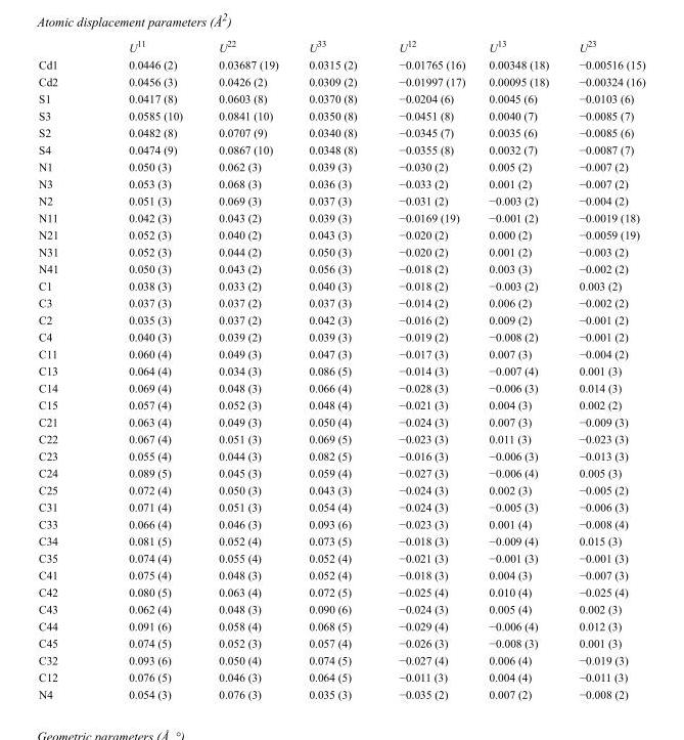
<table><thead><tr><td></td><td>U<sup>11</sup></td><td>U<sup>22</sup></td><td>U<sup>33</sup></td><td>U<sup>12</sup></td><td>U<sup>13</sup></td><td>U<sup>23</sup></td></tr></thead><tbody><tr><td>Cd1</td><td>0.0446 (2)</td><td>0.03687 (19)</td><td>0.0315 (2)</td><td>−0.01765 (16)</td><td>0.00348 (18)</td><td>−0.00516 (15)</td></tr><tr><td>Cd2</td><td>0.0456 (3)</td><td>0.0426 (2)</td><td>0.0309 (2)</td><td>−0.01997 (17)</td><td>0.00095 (18)</td><td>−0.00324 (16)</td></tr><tr><td>S1</td><td>0.0417 (8)</td><td>0.0603 (8)</td><td>0.0370 (8)</td><td>−0.0204 (6)</td><td>0.0045 (6)</td><td>−0.0103 (6)</td></tr><tr><td>S3</td><td>0.0585 (10)</td><td>0.0841 (10)</td><td>0.0350 (8)</td><td>−0.0451 (8)</td><td>0.0040 (7)</td><td>−0.0085 (7)</td></tr><tr><td>S2</td><td>0.0482 (8)</td><td>0.0707 (9)</td><td>0.0340 (8)</td><td>−0.0345 (7)</td><td>0.0035 (6)</td><td>−0.0085 (6)</td></tr><tr><td>S4</td><td>0.0474 (9)</td><td>0.0867 (10)</td><td>0.0348 (8)</td><td>−0.0355 (8)</td><td>0.0032 (7)</td><td>−0.0087 (7)</td></tr><tr><td>N1</td><td>0.050 (3)</td><td>0.062 (3)</td><td>0.039 (3)</td><td>−0.030 (2)</td><td>0.005 (2)</td><td>−0.007 (2)</td></tr><tr><td>N3</td><td>0.053 (3)</td><td>0.068 (3)</td><td>0.036 (3)</td><td>−0.033 (2)</td><td>0.001 (2)</td><td>−0.007 (2)</td></tr><tr><td>N2</td><td>0.051 (3)</td><td>0.069 (3)</td><td>0.037 (3)</td><td>−0.031 (2)</td><td>−0.003 (2)</td><td>−0.004 (2)</td></tr><tr><td>N11</td><td>0.042 (3)</td><td>0.043 (2)</td><td>0.039 (3)</td><td>−0.0169 (19)</td><td>−0.001 (2)</td><td>−0.0019 (18)</td></tr><tr><td>N21</td><td>0.052 (3)</td><td>0.040 (2)</td><td>0.043 (3)</td><td>−0.020 (2)</td><td>0.000 (2)</td><td>−0.0059 (19)</td></tr><tr><td>N31</td><td>0.052 (3)</td><td>0.044 (2)</td><td>0.050 (3)</td><td>−0.020 (2)</td><td>0.001 (2)</td><td>−0.003 (2)</td></tr><tr><td>N41</td><td>0.050 (3)</td><td>0.043 (2)</td><td>0.056 (3)</td><td>−0.018 (2)</td><td>0.003 (3)</td><td>−0.002 (2)</td></tr><tr><td>C1</td><td>0.038 (3)</td><td>0.033 (2)</td><td>0.040 (3)</td><td>−0.018 (2)</td><td>−0.003 (2)</td><td>0.003 (2)</td></tr><tr><td>C3</td><td>0.037 (3)</td><td>0.037 (2)</td><td>0.037 (3)</td><td>−0.014 (2)</td><td>0.006 (2)</td><td>−0.002 (2)</td></tr><tr><td>C2</td><td>0.035 (3)</td><td>0.037 (2)</td><td>0.042 (3)</td><td>−0.016 (2)</td><td>0.009 (2)</td><td>−0.001 (2)</td></tr><tr><td>C4</td><td>0.040 (3)</td><td>0.039 (2)</td><td>0.039 (3)</td><td>−0.019 (2)</td><td>−0.008 (2)</td><td>−0.001 (2)</td></tr><tr><td>C11</td><td>0.060 (4)</td><td>0.049 (3)</td><td>0.047 (3)</td><td>−0.017 (3)</td><td>0.007 (3)</td><td>−0.004 (2)</td></tr><tr><td>C13</td><td>0.064 (4)</td><td>0.034 (3)</td><td>0.086 (5)</td><td>−0.014 (3)</td><td>−0.007 (4)</td><td>0.001 (3)</td></tr><tr><td>C14</td><td>0.069 (4)</td><td>0.048 (3)</td><td>0.066 (4)</td><td>−0.028 (3)</td><td>−0.006 (3)</td><td>0.014 (3)</td></tr><tr><td>C15</td><td>0.057 (4)</td><td>0.052 (3)</td><td>0.048 (4)</td><td>−0.021 (3)</td><td>0.004 (3)</td><td>0.002 (2)</td></tr><tr><td>C21</td><td>0.063 (4)</td><td>0.049 (3)</td><td>0.050 (4)</td><td>−0.024 (3)</td><td>0.007 (3)</td><td>−0.009 (3)</td></tr><tr><td>C22</td><td>0.067 (4)</td><td>0.051 (3)</td><td>0.069 (5)</td><td>−0.023 (3)</td><td>0.011 (3)</td><td>−0.023 (3)</td></tr><tr><td>C23</td><td>0.055 (4)</td><td>0.044 (3)</td><td>0.082 (5)</td><td>−0.016 (3)</td><td>−0.006 (3)</td><td>−0.013 (3)</td></tr><tr><td>C24</td><td>0.089 (5)</td><td>0.045 (3)</td><td>0.059 (4)</td><td>−0.027 (3)</td><td>−0.006 (4)</td><td>0.005 (3)</td></tr><tr><td>C25</td><td>0.072 (4)</td><td>0.050 (3)</td><td>0.043 (3)</td><td>−0.024 (3)</td><td>0.002 (3)</td><td>−0.005 (2)</td></tr><tr><td>C31</td><td>0.071 (4)</td><td>0.051 (3)</td><td>0.054 (4)</td><td>−0.024 (3)</td><td>−0.005 (3)</td><td>−0.006 (3)</td></tr><tr><td>C33</td><td>0.066 (4)</td><td>0.046 (3)</td><td>0.093 (6)</td><td>−0.023 (3)</td><td>0.001 (4)</td><td>−0.008 (4)</td></tr><tr><td>C34</td><td>0.081 (5)</td><td>0.052 (4)</td><td>0.073 (5)</td><td>−0.018 (3)</td><td>−0.009 (4)</td><td>0.015 (3)</td></tr><tr><td>C35</td><td>0.074 (4)</td><td>0.055 (4)</td><td>0.052 (4)</td><td>−0.021 (3)</td><td>−0.001 (3)</td><td>−0.001 (3)</td></tr><tr><td>C41</td><td>0.075 (4)</td><td>0.048 (3)</td><td>0.052 (4)</td><td>−0.018 (3)</td><td>0.004 (3)</td><td>−0.007 (3)</td></tr><tr><td>C42</td><td>0.080 (5)</td><td>0.063 (4)</td><td>0.072 (5)</td><td>−0.025 (4)</td><td>0.010 (4)</td><td>−0.025 (4)</td></tr><tr><td>C43</td><td>0.062 (4)</td><td>0.048 (3)</td><td>0.090 (6)</td><td>−0.024 (3)</td><td>0.005 (4)</td><td>0.002 (3)</td></tr><tr><td>C44</td><td>0.091 (6)</td><td>0.058 (4)</td><td>0.068 (5)</td><td>−0.029 (4)</td><td>−0.006 (4)</td><td>0.012 (3)</td></tr><tr><td>C45</td><td>0.074 (5)</td><td>0.052 (3)</td><td>0.057 (4)</td><td>−0.026 (3)</td><td>−0.008 (3)</td><td>0.001 (3)</td></tr><tr><td>C32</td><td>0.093 (6)</td><td>0.050 (4)</td><td>0.074 (5)</td><td>−0.027 (4)</td><td>0.006 (4)</td><td>−0.019 (3)</td></tr><tr><td>C12</td><td>0.076 (5)</td><td>0.046 (3)</td><td>0.064 (5)</td><td>−0.011 (3)</td><td>0.004 (4)</td><td>−0.011 (3)</td></tr><tr><td>N4</td><td>0.054 (3)</td><td>0.076 (3)</td><td>0.035 (3)</td><td>−0.035 (2)</td><td>0.007 (2)</td><td>−0.008 (2)</td></tr></tbody></table>